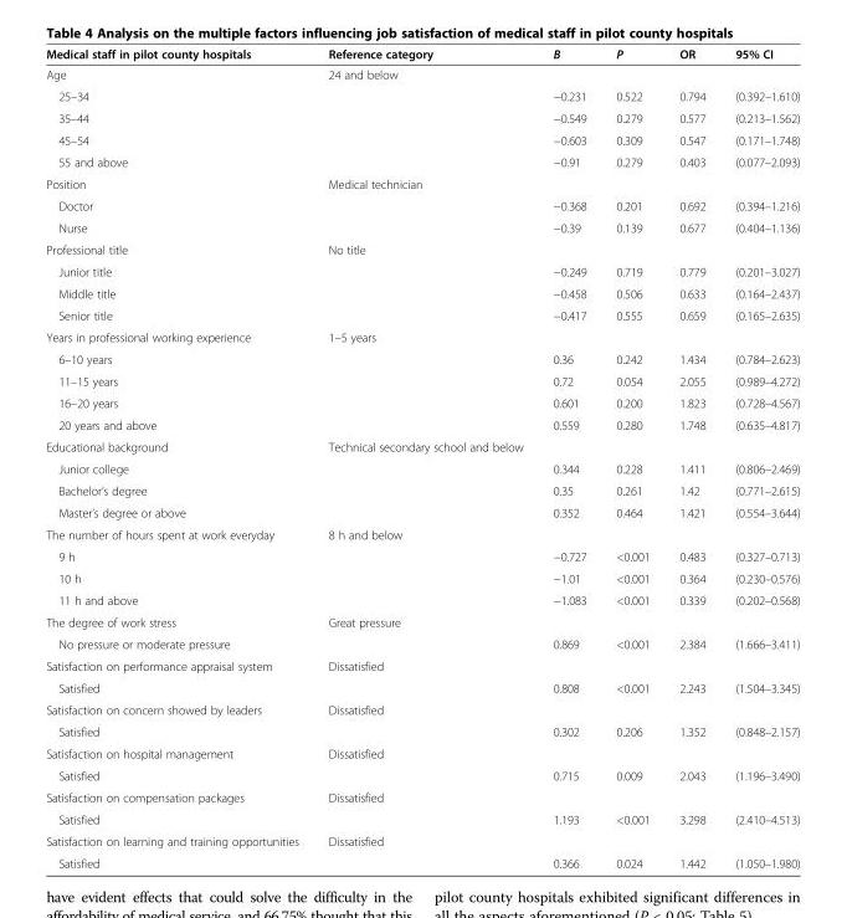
<table><thead><tr><td>Medical staff in pilot county hospitals</td><td>Reference category</td><td>B</td><td>P</td><td>OR</td><td>95% CI</td></tr></thead><tbody><tr><td>Age</td><td>24 and below</td><td></td><td></td><td></td><td></td></tr><tr><td>25–34</td><td></td><td>−0.231</td><td>0.522</td><td>0.794</td><td>(0.392–1.610)</td></tr><tr><td>35–44</td><td></td><td>−0.549</td><td>0.279</td><td>0.577</td><td>(0.213–1.562)</td></tr><tr><td>45–54</td><td></td><td>−0.603</td><td>0.309</td><td>0.547</td><td>(0.171–1.748)</td></tr><tr><td>55 and above</td><td></td><td>−0.91</td><td>0.279</td><td>0.403</td><td>(0.077–2.093)</td></tr><tr><td>Position</td><td>Medical technician</td><td></td><td></td><td></td><td></td></tr><tr><td>Doctor</td><td></td><td>−0.368</td><td>0.201</td><td>0.692</td><td>(0.394–1.216)</td></tr><tr><td>Nurse</td><td></td><td>−0.39</td><td>0.139</td><td>0.677</td><td>(0.404–1.136)</td></tr><tr><td>Professional title</td><td>No title</td><td></td><td></td><td></td><td></td></tr><tr><td>Junior title</td><td></td><td>−0.249</td><td>0.719</td><td>0.779</td><td>(0.201–3.027)</td></tr><tr><td>Middle title</td><td></td><td>−0.458</td><td>0.506</td><td>0.633</td><td>(0.164–2.437)</td></tr><tr><td>Senior title</td><td></td><td>−0.417</td><td>0.555</td><td>0.659</td><td>(0.165–2.635)</td></tr><tr><td>Years in professional working experience</td><td>1–5 years</td><td></td><td></td><td></td><td></td></tr><tr><td>6–10 years</td><td></td><td>0.36</td><td>0.242</td><td>1.434</td><td>(0.784–2.623)</td></tr><tr><td>11–15 years</td><td></td><td>0.72</td><td>0.054</td><td>2.055</td><td>(0.989–4.272)</td></tr><tr><td>16–20 years</td><td></td><td>0.601</td><td>0.200</td><td>1.823</td><td>(0.728–4.567)</td></tr><tr><td>20 years and above</td><td></td><td>0.559</td><td>0.280</td><td>1.748</td><td>(0.635–4.817)</td></tr><tr><td>Educational background</td><td>Technical secondary school and below</td><td></td><td></td><td></td><td></td></tr><tr><td>Junior college</td><td></td><td>0.344</td><td>0.228</td><td>1.411</td><td>(0.806–2.469)</td></tr><tr><td>Bachelor’s degree</td><td></td><td>0.35</td><td>0.261</td><td>1.42</td><td>(0.771–2.615)</td></tr><tr><td>Master’s degree or above</td><td></td><td>0.352</td><td>0.464</td><td>1.421</td><td>(0.554–3.644)</td></tr><tr><td>The number of hours spent at work everyday</td><td>8 h and below</td><td></td><td></td><td></td><td></td></tr><tr><td>9 h</td><td></td><td>−0.727</td><td>&lt;0.001</td><td>0.483</td><td>(0.327–0.713)</td></tr><tr><td>10 h</td><td></td><td>−1.01</td><td>&lt;0.001</td><td>0.364</td><td>(0.230–0.576)</td></tr><tr><td>11 h and above</td><td></td><td>−1.083</td><td>&lt;0.001</td><td>0.339</td><td>(0.202–0.568)</td></tr><tr><td>The degree of work stress</td><td>Great pressure</td><td></td><td></td><td></td><td></td></tr><tr><td>No pressure or moderate pressure</td><td></td><td>0.869</td><td>&lt;0.001</td><td>2.384</td><td>(1.666–3.411)</td></tr><tr><td>Satisfaction on performance appraisal system</td><td>Dissatisfied</td><td></td><td></td><td></td><td></td></tr><tr><td>Satisfied</td><td></td><td>0.808</td><td>&lt;0.001</td><td>2.243</td><td>(1.504–3.345)</td></tr><tr><td>Satisfaction on concern showed by leaders</td><td>Dissatisfied</td><td></td><td></td><td></td><td></td></tr><tr><td>Satisfied</td><td></td><td>0.302</td><td>0.206</td><td>1.352</td><td>(0.848–2.157)</td></tr><tr><td>Satisfaction on hospital management</td><td>Dissatisfied</td><td></td><td></td><td></td><td></td></tr><tr><td>Satisfied</td><td></td><td>0.715</td><td>0.009</td><td>2.043</td><td>(1.196–3.490)</td></tr><tr><td>Satisfaction on compensation packages</td><td>Dissatisfied</td><td></td><td></td><td></td><td></td></tr><tr><td>Satisfied</td><td></td><td>1.193</td><td>&lt;0.001</td><td>3.298</td><td>(2.410–4.513)</td></tr><tr><td>Satisfaction on learning and training opportunities</td><td>Dissatisfied</td><td></td><td></td><td></td><td></td></tr><tr><td>Satisfied</td><td></td><td>0.366</td><td>0.024</td><td>1.442</td><td>(1.050–1.980)</td></tr></tbody></table>